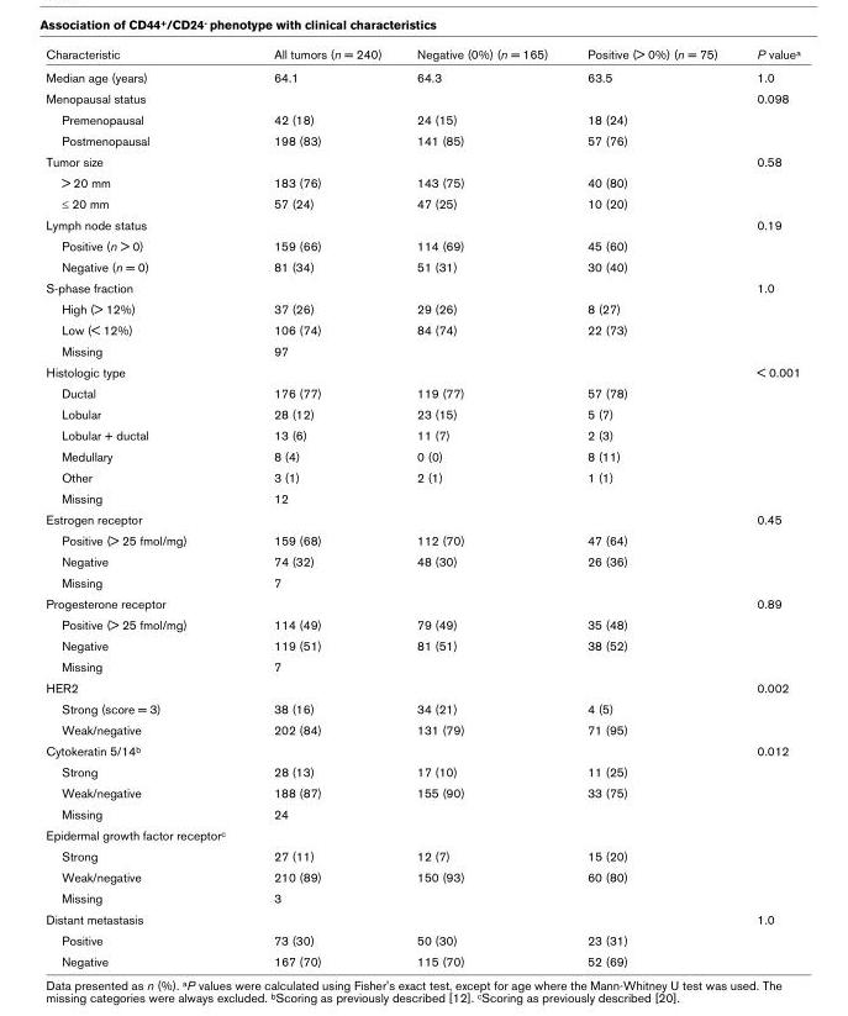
<table><thead><tr><td>Characteristic</td><td>All tumors (n = 240)</td><td>Negative (0%) (n = 165)</td><td>Positive (&gt; 0%) (n = 75)</td><td>P value<sup>a</sup></td></tr></thead><tbody><tr><td>Median age (years)</td><td>64.1</td><td>64.3</td><td>63.5</td><td>1.0</td></tr><tr><td>Menopausal status</td><td></td><td></td><td></td><td>0.098</td></tr><tr><td>Premenopausal</td><td>42 (18)</td><td>24 (15)</td><td>18 (24)</td><td></td></tr><tr><td>Postmenopausal</td><td>198 (83)</td><td>141 (85)</td><td>57 (76)</td><td></td></tr><tr><td>Tumor size</td><td></td><td></td><td></td><td>0.58</td></tr><tr><td>&gt; 20 mm</td><td>183 (76)</td><td>143 (75)</td><td>40 (80)</td><td></td></tr><tr><td>≤ 20 mm</td><td>57 (24)</td><td>47 (25)</td><td>10 (20)</td><td></td></tr><tr><td>Lymph node status</td><td></td><td></td><td></td><td>0.19</td></tr><tr><td>Positive (n &gt; 0)</td><td>159 (66)</td><td>114 (69)</td><td>45 (60)</td><td></td></tr><tr><td>Negative (n = 0)</td><td>81 (34)</td><td>51 (31)</td><td>30 (40)</td><td></td></tr><tr><td>S-phase fraction</td><td></td><td></td><td></td><td>1.0</td></tr><tr><td>High (&gt; 12%)</td><td>37 (26)</td><td>29 (26)</td><td>8 (27)</td><td></td></tr><tr><td>Low (&lt; 12%)</td><td>106 (74)</td><td>84 (74)</td><td>22 (73)</td><td></td></tr><tr><td>Missing</td><td>97</td><td></td><td></td><td></td></tr><tr><td>Histologic type</td><td></td><td></td><td></td><td>&lt; 0.001</td></tr><tr><td>Ductal</td><td>176 (77)</td><td>119 (77)</td><td>57 (78)</td><td></td></tr><tr><td>Lobular</td><td>28 (12)</td><td>23 (15)</td><td>5 (7)</td><td></td></tr><tr><td>Lobular + ductal</td><td>13 (6)</td><td>11 (7)</td><td>2 (3)</td><td></td></tr><tr><td>Medullary</td><td>8 (4)</td><td>0 (0)</td><td>8 (11)</td><td></td></tr><tr><td>Other</td><td>3 (1)</td><td>2 (1)</td><td>1 (1)</td><td></td></tr><tr><td>Missing</td><td>12</td><td></td><td></td><td></td></tr><tr><td>Estrogen receptor</td><td></td><td></td><td></td><td>0.45</td></tr><tr><td>Positive (&gt; 25 fmol/mg)</td><td>159 (68)</td><td>112 (70)</td><td>47 (64)</td><td></td></tr><tr><td>Negative</td><td>74 (32)</td><td>48 (30)</td><td>26 (36)</td><td></td></tr><tr><td>Missing</td><td>7</td><td></td><td></td><td></td></tr><tr><td>Progesterone receptor</td><td></td><td></td><td></td><td>0.89</td></tr><tr><td>Positive (&gt; 25 fmol/mg)</td><td>114 (49)</td><td>79 (49)</td><td>35 (48)</td><td></td></tr><tr><td>Negative</td><td>119 (51)</td><td>81 (51)</td><td>38 (52)</td><td></td></tr><tr><td>Missing</td><td>7</td><td></td><td></td><td></td></tr><tr><td>HER2</td><td></td><td></td><td></td><td>0.002</td></tr><tr><td>Strong (score = 3)</td><td>38 (16)</td><td>34 (21)</td><td>4 (5)</td><td></td></tr><tr><td>Weak/negative</td><td>202 (84)</td><td>131 (79)</td><td>71 (95)</td><td></td></tr><tr><td>Cytokeratin 5/14<sup>b</sup></td><td></td><td></td><td></td><td>0.012</td></tr><tr><td>Strong</td><td>28 (13)</td><td>17 (10)</td><td>11 (25)</td><td></td></tr><tr><td>Weak/negative</td><td>188 (87)</td><td>155 (90)</td><td>33 (75)</td><td></td></tr><tr><td>Missing</td><td>24</td><td></td><td></td><td></td></tr><tr><td colspan="5">Epidermal growth factor receptor<sup>c</sup></td></tr><tr><td>Strong</td><td>27 (11)</td><td>12 (7)</td><td>15 (20)</td><td></td></tr><tr><td>Weak/negative</td><td>210 (89)</td><td>150 (93)</td><td>60 (80)</td><td></td></tr><tr><td>Missing</td><td>3</td><td></td><td></td><td></td></tr><tr><td>Distant metastasis</td><td></td><td></td><td></td><td>1.0</td></tr><tr><td>Positive</td><td>73 (30)</td><td>50 (30)</td><td>23 (31)</td><td></td></tr><tr><td>Negative</td><td>167 (70)</td><td>115 (70)</td><td>52 (69)</td><td></td></tr></tbody></table>